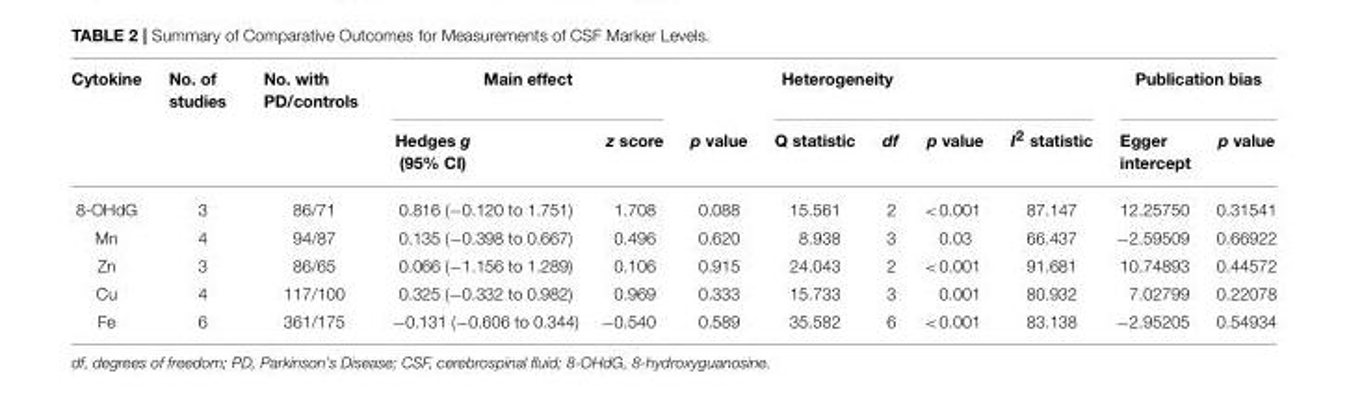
<table><thead><tr><td rowspan="2">Cytokine</td><td rowspan="2">No. of studies</td><td rowspan="2">No. with PD/controls</td><td colspan="2">Main effect</td><td colspan="4">Heterogeneity</td><td rowspan="2">I<sup>2</sup> statistic</td><td colspan="2">Publication bias</td></tr><tr><td>Hedges g (95% CI)</td><td>z score</td><td>p value</td><td>Q statistic</td><td>df</td><td>p value</td><td>Egger intercept</td><td>p value</td></tr></thead><tbody><tr><td>8-OHdG</td><td>3</td><td>86/71</td><td>0.816 (−0.120 to 1.751)</td><td>1.708</td><td>0.088</td><td>15.561</td><td>2</td><td>&lt;0.001</td><td>87.147</td><td>12.25750</td><td>0.31541</td></tr><tr><td>Mn</td><td>4</td><td>94/87</td><td>0.135 (−0.398 to 0.667)</td><td>0.496</td><td>0.620</td><td>8.938</td><td>3</td><td>0.03</td><td>66.437</td><td>−2.59509</td><td>0.66922</td></tr><tr><td>Zn</td><td>3</td><td>86/65</td><td>0.066 (−1.156 to 1.289)</td><td>0.106</td><td>0.915</td><td>24.043</td><td>2</td><td>&lt;0.001</td><td>91.681</td><td>10.74893</td><td>0.44572</td></tr><tr><td>Cu</td><td>4</td><td>117/100</td><td>0.325 (−0.332 to 0.982)</td><td>0.969</td><td>0.333</td><td>15.733</td><td>3</td><td>0.001</td><td>80.932</td><td>7.02799</td><td>0.22078</td></tr><tr><td>Fe</td><td>6</td><td>361/175</td><td>−0.131 (−0.606 to 0.344)</td><td>−0.540</td><td>0.589</td><td>35.582</td><td>6</td><td>&lt;0.001</td><td>83.138</td><td>−2.95205</td><td>0.54934</td></tr></tbody></table>